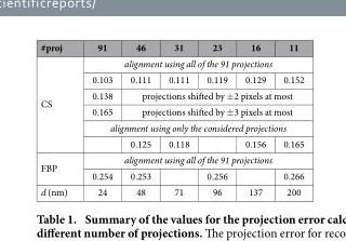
<table><thead><tr><td>#proj</td><td>91</td><td>46</td><td>31</td><td>23</td><td>16</td><td>11</td></tr></thead><tbody><tr><td rowspan="6">CS</td><td colspan="6">alignment using all of the 91 projections</td></tr><tr><td>0.103</td><td>0.111</td><td>0.111</td><td>0.119</td><td>0.129</td><td>0.152</td></tr><tr><td>0.138</td><td colspan="5">projections shifted by ± 2 pixels at most</td></tr><tr><td>0.165</td><td colspan="5">projections shifted by ± 3 pixels at most</td></tr><tr><td colspan="6">alignment using only the considered projections</td></tr><tr><td></td><td>0.125</td><td>0.118</td><td></td><td>0.156</td><td>0.165</td></tr><tr><td rowspan="2">FBP</td><td colspan="6">alignment using all of the 91 projections</td></tr><tr><td>0.254</td><td>0.253</td><td></td><td>0.256</td><td></td><td>0.266</td></tr><tr><td>d (nm)</td><td>24</td><td>48</td><td>71</td><td>96</td><td>137</td><td>200</td></tr></tbody></table>